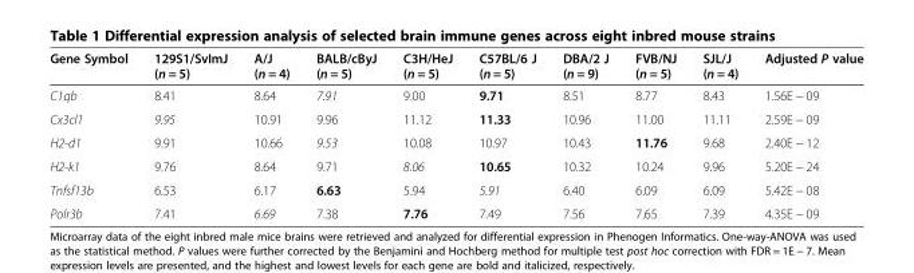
<table><thead><tr><td>Gene Symbol</td><td>129S1/SvImJ (n = 5)</td><td>A/J (n = 4)</td><td>BALB/cByJ (n = 5)</td><td>C3H/HeJ (n = 5)</td><td>C57BL/6 J (n = 5)</td><td>DBA/2 J (n = 9)</td><td>FVB/NJ (n = 5)</td><td>SJL/J (n = 4)</td><td>Adjusted P value</td></tr></thead><tbody><tr><td>C1qb</td><td>8.41</td><td>8.64</td><td>7.91</td><td>9.00</td><td>9.71</td><td>8.51</td><td>8.77</td><td>8.43</td><td>1.56E − 09</td></tr><tr><td>Cx3cl1</td><td>9.95</td><td>10.91</td><td>9.96</td><td>11.12</td><td>11.33</td><td>10.96</td><td>11.00</td><td>11.11</td><td>2.59E − 09</td></tr><tr><td>H2-d1</td><td>9.91</td><td>10.66</td><td>9.53</td><td>10.08</td><td>10.97</td><td>10.43</td><td>11.76</td><td>9.68</td><td>2.40E − 12</td></tr><tr><td>H2-k1</td><td>9.76</td><td>8.64</td><td>9.71</td><td>8.06</td><td>10.65</td><td>10.32</td><td>10.24</td><td>9.96</td><td>5.20E − 24</td></tr><tr><td>Tnfsf13b</td><td>6.53</td><td>6.17</td><td>6.63</td><td>5.94</td><td>5.91</td><td>6.40</td><td>6.09</td><td>6.09</td><td>5.42E − 08</td></tr><tr><td>Polr3b</td><td>7.41</td><td>6.69</td><td>7.38</td><td>7.76</td><td>7.49</td><td>7.56</td><td>7.65</td><td>7.39</td><td>4.35E − 09</td></tr></tbody></table>